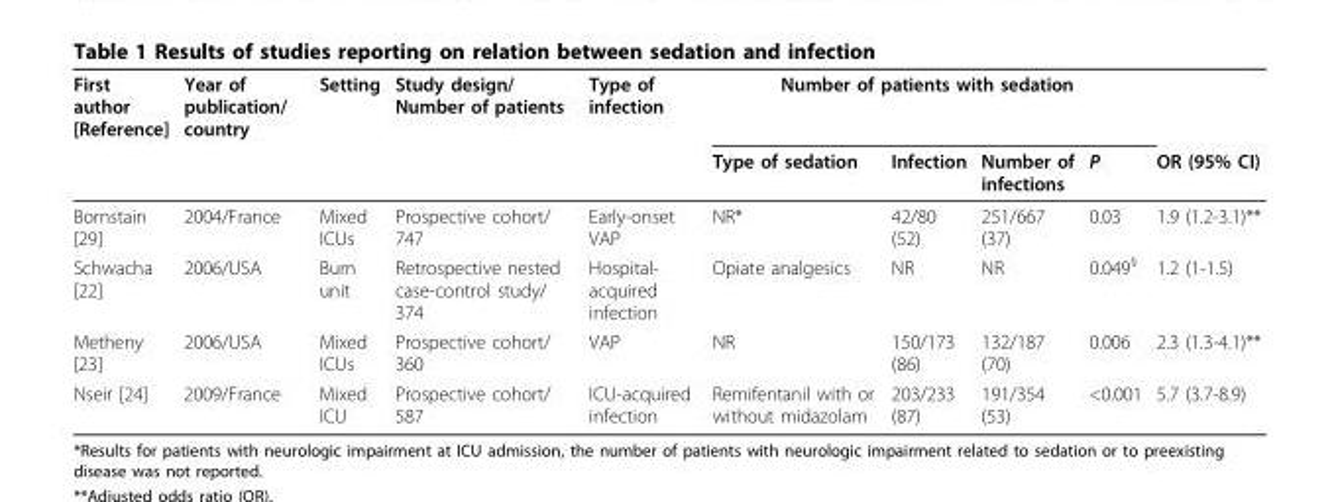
<table><thead><tr><td rowspan="2">First author [Reference]</td><td rowspan="2">Year of publication/ country</td><td rowspan="2">Setting</td><td rowspan="2">Study design/ Number of patients</td><td rowspan="2">Type of infection</td><td colspan="4">Number of patients with sedation</td><td rowspan="2">OR (95% CI)</td></tr><tr><td>Type of sedation</td><td>Infection</td><td>Number of infections</td><td>P</td></tr></thead><tbody><tr><td>Bornstain [29]</td><td>2004/France</td><td>Mixed ICUs</td><td>Prospective cohort/ 747</td><td>Early-onset VAP</td><td>NR*</td><td>42/80 (52)</td><td>251/667 (37)</td><td>0.03</td><td>1.9 (1.2-3.1)**</td></tr><tr><td>Schwacha [22]</td><td>2006/USA</td><td>Burn unit</td><td>Retrospective nested case-control study/ 374</td><td>Hospital- acquired infection</td><td>Opiate analgesics</td><td>NR</td><td>NR</td><td>0.049<sup>§</sup></td><td>1.2 (1-1.5)</td></tr><tr><td>Metheny [23]</td><td>2006/USA</td><td>Mixed ICUs</td><td>Prospective cohort/ 360</td><td>VAP</td><td>NR</td><td>150/173 (86)</td><td>132/187 (70)</td><td>0.006</td><td>2.3 (1.3-4.1)**</td></tr><tr><td>Nseir [24]</td><td>2009/France</td><td>Mixed ICU</td><td>Prospective cohort/ 587</td><td>ICU-acquired infection</td><td>Remifentanil with or without midazolam</td><td>203/233 (87)</td><td>191/354 (53)</td><td>&lt;0.001</td><td>5.7 (3.7-8.9)</td></tr></tbody></table>